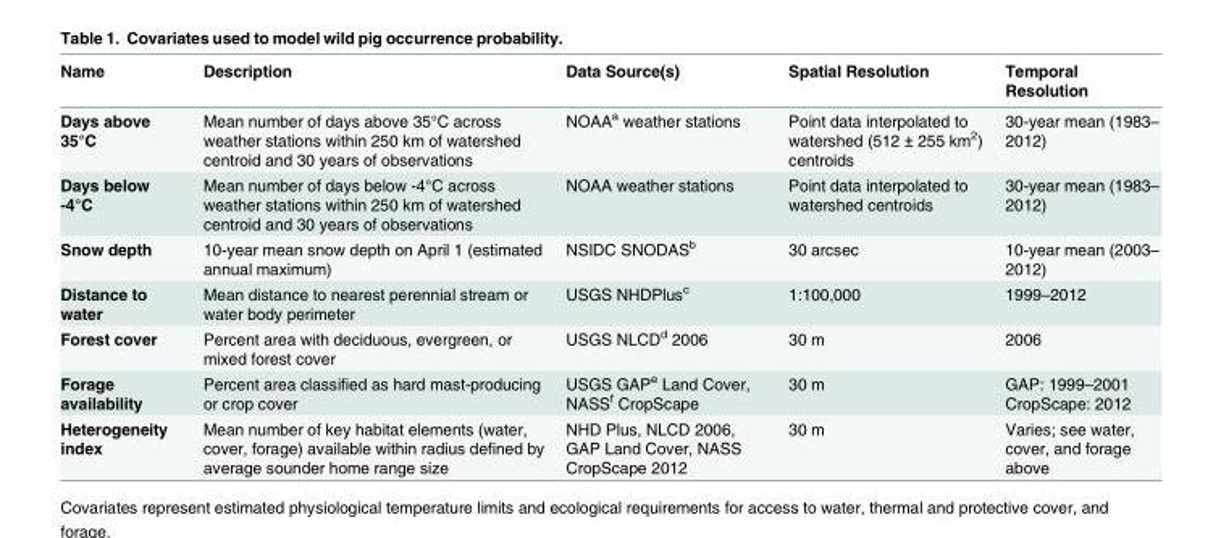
<table><thead><tr><td>Name</td><td>Description</td><td>Data Source(s)</td><td>Spatial Resolution</td><td>Temporal Resolution</td></tr></thead><tbody><tr><td>Days above 35°C</td><td>Mean number of days above 35°C across weather stations within 250 km of watershed centroid and 30 years of observations</td><td>NOAA<sup>a</sup> weather stations</td><td>Point data interpolated to watershed (512 ± 255 km<sup>2</sup>) centroids</td><td>30-year mean (1983– 2012)</td></tr><tr><td>Days below -4°C</td><td>Mean number of days below -4°C across weather stations within 250 km of watershed centroid and 30 years of observations</td><td>NOAA weather stations</td><td>Point data interpolated to watershed centroids</td><td>30-year mean (1983– 2012)</td></tr><tr><td>Snow depth</td><td>10-year mean snow depth on April 1 (estimated annual maximum)</td><td>NSIDC SNODAS<sup>b</sup></td><td>30 arcsec</td><td>10-year mean (2003– 2012)</td></tr><tr><td>Distance to water</td><td>Mean distance to nearest perennial stream or water body perimeter</td><td>USGS NHDPlus<sup>c</sup></td><td>1:100,000</td><td>1999–2012</td></tr><tr><td>Forest cover</td><td>Percent area with deciduous, evergreen, or mixed forest cover</td><td>USGS NLCD<sup>d</sup> 2006</td><td>30 m</td><td>2006</td></tr><tr><td>Forage availability</td><td>Percent area classified as hard mast-producing or crop cover</td><td>USGS GAP<sup>e</sup> Land Cover, NASS<sup>f</sup> CropScape</td><td>30 m</td><td>GAP: 1999–2001 CropScape: 2012</td></tr><tr><td>Heterogeneity index</td><td>Mean number of key habitat elements (water, cover, forage) available within radius defined by average sounder home range size</td><td>NHD Plus, NLCD 2006, GAP Land Cover, NASS CropScape 2012</td><td>30 m</td><td>Varies; see water, cover, and forage above</td></tr></tbody></table>